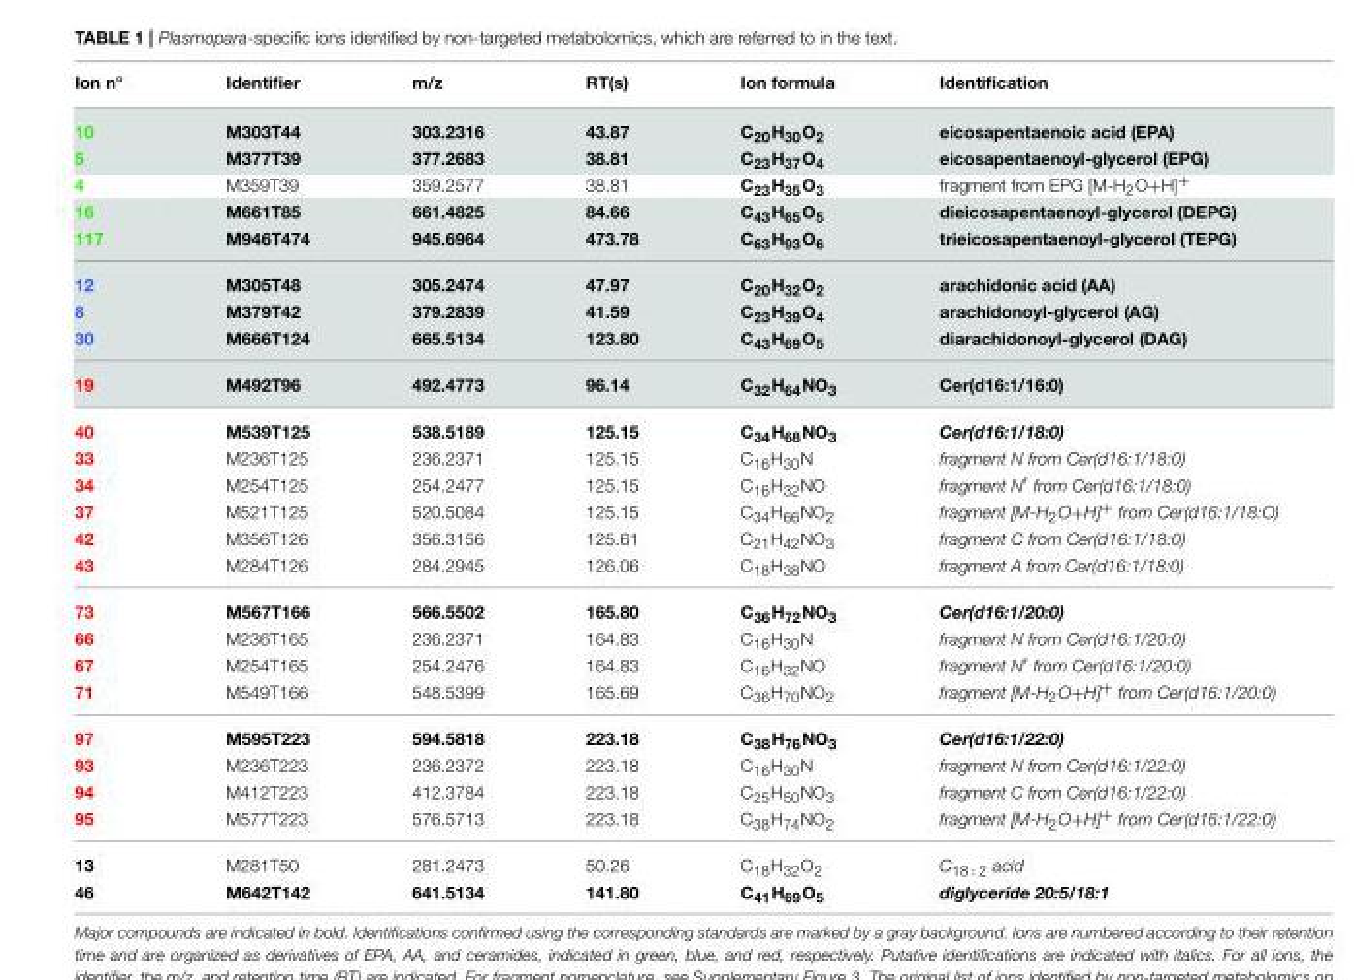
<table><thead><tr><td>Ion n◦</td><td>Identifier</td><td>m/z</td><td>RT(s)</td><td>Ion formula</td><td>Identification</td></tr></thead><tbody><tr><td>10</td><td>M303T44</td><td>303.2316</td><td>43.87</td><td>C<sub>20</sub>H<sub>30</sub>O<sub>2</sub></td><td>eicosapentaenoic acid (EPA)</td></tr><tr><td>5</td><td>M377T39</td><td>377.2683</td><td>38.81</td><td>C<sub>23</sub>H<sub>37</sub>O<sub>4</sub></td><td>eicosapentaenoyl-glycerol (EPG)</td></tr><tr><td>4</td><td>M359T39</td><td>359.2577</td><td>38.81</td><td>C<sub>23</sub>H<sub>35</sub>O<sub>3</sub></td><td>fragment from EPG [M-H<sub>2</sub>O+H]<sup>+</sup></td></tr><tr><td>16</td><td>M661T85</td><td>661.4825</td><td>84.66</td><td>C<sub>43</sub>H<sub>65</sub>O<sub>5</sub></td><td>dieicosapentaenoyl-glycerol (DEPG)</td></tr><tr><td>117</td><td>M946T474</td><td>945.6964</td><td>473.78</td><td>C<sub>63</sub>H<sub>93</sub>O<sub>6</sub></td><td>trieicosapentaenoyl-glycerol (TEPG)</td></tr><tr><td>12</td><td>M305T48</td><td>305.2474</td><td>47.97</td><td>C<sub>20</sub>H<sub>32</sub>O<sub>2</sub></td><td>arachidonic acid (AA)</td></tr><tr><td>8</td><td>M379T42</td><td>379.2839</td><td>41.59</td><td>C<sub>23</sub>H<sub>39</sub>O<sub>4</sub></td><td>arachidonoyl-glycerol (AG)</td></tr><tr><td>30</td><td>M666T124</td><td>665.5134</td><td>123.80</td><td>C<sub>43</sub>H<sub>69</sub>O<sub>5</sub></td><td>diarachidonoyl-glycerol (DAG)</td></tr><tr><td>19</td><td>M492T96</td><td>492.4773</td><td>96.14</td><td>C<sub>32</sub>H<sub>64</sub>NO<sub>3</sub></td><td>Cer(d16:1/16:0)</td></tr><tr><td>40</td><td>M539T125</td><td>538.5189</td><td>125.15</td><td>C<sub>34</sub>H<sub>68</sub>NO<sub>3</sub></td><td>Cer(d16:1/18:0)</td></tr><tr><td>33</td><td>M236T125</td><td>236.2371</td><td>125.15</td><td>C<sub>16</sub>H<sub>30</sub>N</td><td>fragment N from Cer(d16:1/18:0)</td></tr><tr><td>34</td><td>M254T125</td><td>254.2477</td><td>125.15</td><td>C<sub>16</sub>H<sub>32</sub>NO</td><td>fragment N′ from Cer(d16:1/18:0)</td></tr><tr><td>37</td><td>M521T125</td><td>520.5084</td><td>125.15</td><td>C<sub>34</sub>H<sub>66</sub>NO<sub>2</sub></td><td>fragment [M-H<sub>2</sub>O+H]<sup>+</sup> from Cer(d16:1/18:O)</td></tr><tr><td>42</td><td>M356T126</td><td>356.3156</td><td>125.61</td><td>C<sub>21</sub>H<sub>42</sub>NO<sub>3</sub></td><td>fragment C from Cer(d16:1/18:0)</td></tr><tr><td>43</td><td>M284T126</td><td>284.2945</td><td>126.06</td><td>C<sub>18</sub>H<sub>38</sub>NO</td><td>fragment A from Cer(d16:1/18:0)</td></tr><tr><td>73</td><td>M567T166</td><td>566.5502</td><td>165.80</td><td>C<sub>36</sub>H<sub>72</sub>NO<sub>3</sub></td><td>Cer(d16:1/20:0)</td></tr><tr><td>66</td><td>M236T165</td><td>236.2371</td><td>164.83</td><td>C<sub>16</sub>H<sub>30</sub>N</td><td>fragment N from Cer(d16:1/20:0)</td></tr><tr><td>67</td><td>M254T165</td><td>254.2476</td><td>164.83</td><td>C<sub>16</sub>H<sub>32</sub>NO</td><td>fragment N′ from Cer(d16:1/20:0)</td></tr><tr><td>71</td><td>M549T166</td><td>548.5399</td><td>165.69</td><td>C<sub>36</sub>H<sub>70</sub>NO<sub>2</sub></td><td>fragment [M-H<sub>2</sub>O+H]<sup>+</sup> from Cer(d16:1/20:0)</td></tr><tr><td>97</td><td>M595T223</td><td>594.5818</td><td>223.18</td><td>C<sub>38</sub>H<sub>76</sub>NO<sub>3</sub></td><td>Cer(d16:1/22:0)</td></tr><tr><td>93</td><td>M236T223</td><td>236.2372</td><td>223.18</td><td>C<sub>16</sub>H<sub>30</sub>N</td><td>fragment N from Cer(d16:1/22:0)</td></tr><tr><td>94</td><td>M412T223</td><td>412.3784</td><td>223.18</td><td>C<sub>25</sub>H<sub>50</sub>NO<sub>3</sub></td><td>fragment C from Cer(d16:1/22:0)</td></tr><tr><td>95</td><td>M577T223</td><td>576.5713</td><td>223.18</td><td>C<sub>38</sub>H<sub>74</sub>NO<sub>2</sub></td><td>fragment [M-H<sub>2</sub>O+H]<sup>+</sup> from Cer(d16:1/22:0)</td></tr><tr><td>13</td><td>M281T50</td><td>281.2473</td><td>50.26</td><td>C<sub>18</sub>H<sub>32</sub>O<sub>2</sub></td><td>C<sub>18 : 2</sub> acid</td></tr><tr><td>46</td><td>M642T142</td><td>641.5134</td><td>141.80</td><td>C<sub>41</sub>H<sub>69</sub>O<sub>5</sub></td><td>diglyceride 20:5/18:1</td></tr></tbody></table>